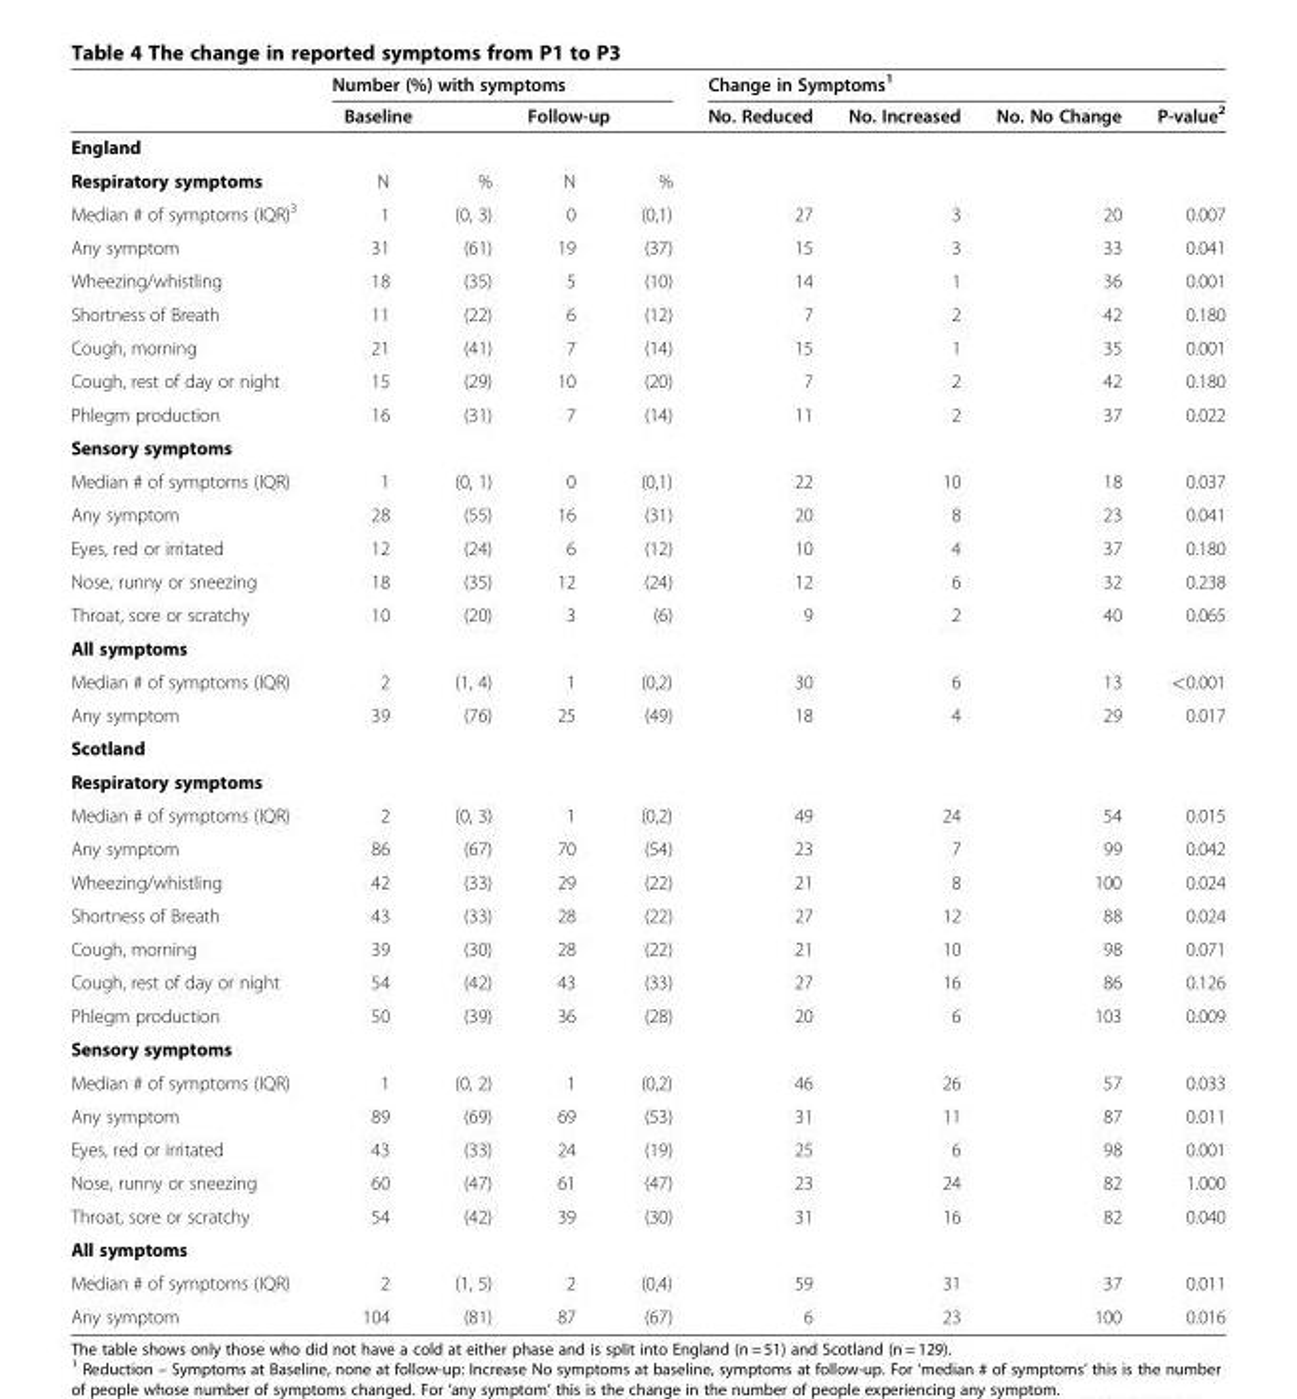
<table><thead><tr><td rowspan="2"></td><td colspan="4">Number (%) with symptoms</td><td colspan="4">Change in Symptoms<sup>1</sup></td></tr><tr><td colspan="2">Baseline</td><td colspan="2">Follow-up</td><td>No. Reduced</td><td>No. Increased</td><td>No. No Change</td><td>P-value<sup>2</sup></td></tr><tr><td colspan="9">England</td></tr><tr><td>Respiratory symptoms</td><td>N</td><td>%</td><td>N</td><td>%</td><td></td><td></td><td></td><td></td></tr></thead><tbody><tr><td>Median # of symptoms (IQR)<sup>3</sup></td><td>1</td><td>(0, 3)</td><td>0</td><td>(0,1)</td><td>27</td><td>3</td><td>20</td><td>0.007</td></tr><tr><td>Any symptom</td><td>31</td><td>(61)</td><td>19</td><td>(37)</td><td>15</td><td>3</td><td>33</td><td>0.041</td></tr><tr><td>Wheezing/whistling</td><td>18</td><td>(35)</td><td>5</td><td>(10)</td><td>14</td><td>1</td><td>36</td><td>0.001</td></tr><tr><td>Shortness of Breath</td><td>11</td><td>(22)</td><td>6</td><td>(12)</td><td>7</td><td>2</td><td>42</td><td>0.180</td></tr><tr><td>Cough, morning</td><td>21</td><td>(41)</td><td>7</td><td>(14)</td><td>15</td><td>1</td><td>35</td><td>0.001</td></tr><tr><td>Cough, rest of day or night</td><td>15</td><td>(29)</td><td>10</td><td>(20)</td><td>7</td><td>2</td><td>42</td><td>0.180</td></tr><tr><td>Phlegm production</td><td>16</td><td>(31)</td><td>7</td><td>(14)</td><td>11</td><td>2</td><td>37</td><td>0.022</td></tr><tr><td colspan="9">Sensory symptoms</td></tr><tr><td>Median # of symptoms (IQR)</td><td>1</td><td>(0, 1)</td><td>0</td><td>(0,1)</td><td>22</td><td>10</td><td>18</td><td>0.037</td></tr><tr><td>Any symptom</td><td>28</td><td>(55)</td><td>16</td><td>(31)</td><td>20</td><td>8</td><td>23</td><td>0.041</td></tr><tr><td>Eyes, red or irritated</td><td>12</td><td>(24)</td><td>6</td><td>(12)</td><td>10</td><td>4</td><td>37</td><td>0.180</td></tr><tr><td>Nose, runny or sneezing</td><td>18</td><td>(35)</td><td>12</td><td>(24)</td><td>12</td><td>6</td><td>32</td><td>0.238</td></tr><tr><td>Throat, sore or scratchy</td><td>10</td><td>(20)</td><td>3</td><td>(6)</td><td>9</td><td>2</td><td>40</td><td>0.065</td></tr><tr><td colspan="9">All symptoms</td></tr><tr><td>Median # of symptoms (IQR)</td><td>2</td><td>(1, 4)</td><td>1</td><td>(0,2)</td><td>30</td><td>6</td><td>13</td><td>&lt;0.001</td></tr><tr><td>Any symptom</td><td>39</td><td>(76)</td><td>25</td><td>(49)</td><td>18</td><td>4</td><td>29</td><td>0.017</td></tr><tr><td colspan="9">Scotland</td></tr><tr><td colspan="9">Respiratory symptoms</td></tr><tr><td>Median # of symptoms (IQR)</td><td>2</td><td>(0, 3)</td><td>1</td><td>(0,2)</td><td>49</td><td>24</td><td>54</td><td>0.015</td></tr><tr><td>Any symptom</td><td>86</td><td>(67)</td><td>70</td><td>(54)</td><td>23</td><td>7</td><td>99</td><td>0.042</td></tr><tr><td>Wheezing/whistling</td><td>42</td><td>(33)</td><td>29</td><td>(22)</td><td>21</td><td>8</td><td>100</td><td>0.024</td></tr><tr><td>Shortness of Breath</td><td>43</td><td>(33)</td><td>28</td><td>(22)</td><td>27</td><td>12</td><td>88</td><td>0.024</td></tr><tr><td>Cough, morning</td><td>39</td><td>(30)</td><td>28</td><td>(22)</td><td>21</td><td>10</td><td>98</td><td>0.071</td></tr><tr><td>Cough, rest of day or night</td><td>54</td><td>(42)</td><td>43</td><td>(33)</td><td>27</td><td>16</td><td>86</td><td>0.126</td></tr><tr><td>Phlegm production</td><td>50</td><td>(39)</td><td>36</td><td>(28)</td><td>20</td><td>6</td><td>103</td><td>0.009</td></tr><tr><td colspan="9">Sensory symptoms</td></tr><tr><td>Median # of symptoms (IQR)</td><td>1</td><td>(0, 2)</td><td>1</td><td>(0,2)</td><td>46</td><td>26</td><td>57</td><td>0.033</td></tr><tr><td>Any symptom</td><td>89</td><td>(69)</td><td>69</td><td>(53)</td><td>31</td><td>11</td><td>87</td><td>0.011</td></tr><tr><td>Eyes, red or irritated</td><td>43</td><td>(33)</td><td>24</td><td>(19)</td><td>25</td><td>6</td><td>98</td><td>0.001</td></tr><tr><td>Nose, runny or sneezing</td><td>60</td><td>(47)</td><td>61</td><td>(47)</td><td>23</td><td>24</td><td>82</td><td>1.000</td></tr><tr><td>Throat, sore or scratchy</td><td>54</td><td>(42)</td><td>39</td><td>(30)</td><td>31</td><td>16</td><td>82</td><td>0.040</td></tr><tr><td colspan="9">All symptoms</td></tr><tr><td>Median # of symptoms (IQR)</td><td>2</td><td>(1, 5)</td><td>2</td><td>(0,4)</td><td>59</td><td>31</td><td>37</td><td>0.011</td></tr><tr><td>Any symptom</td><td>104</td><td>(81)</td><td>87</td><td>(67)</td><td>6</td><td>23</td><td>100</td><td>0.016</td></tr></tbody></table>